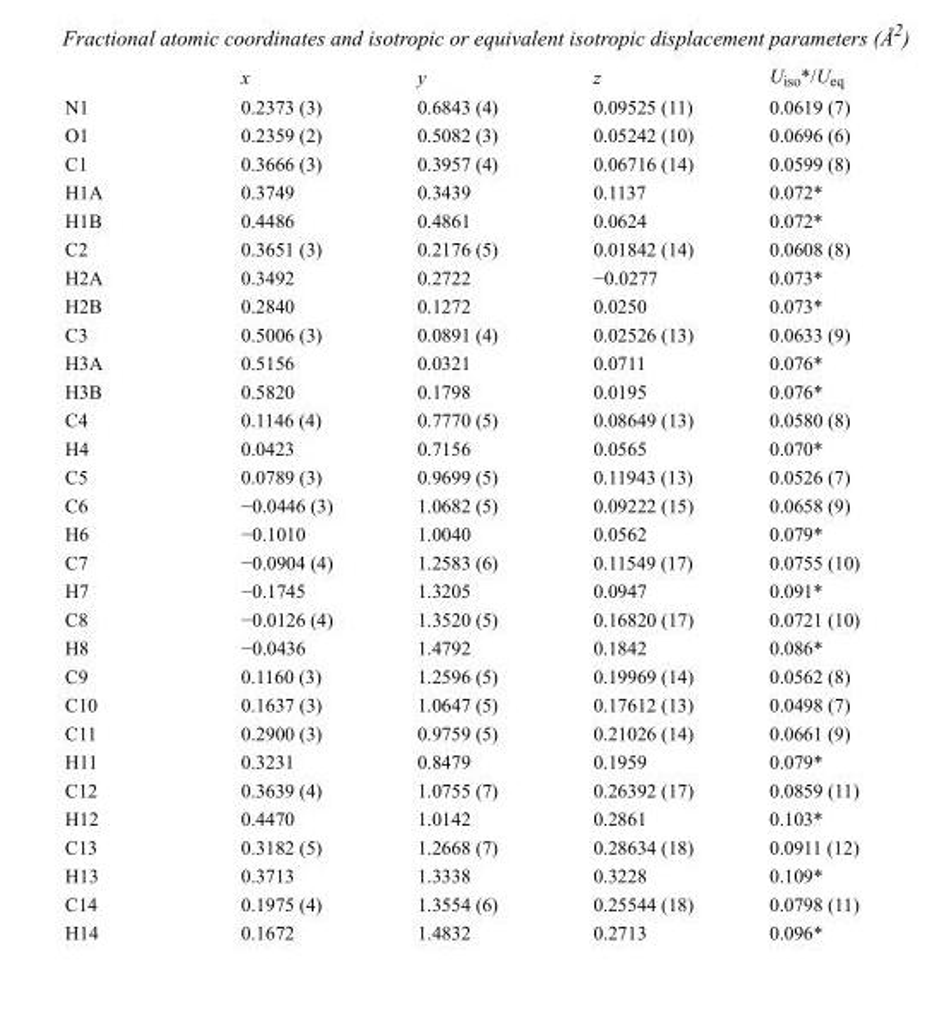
<table><thead><tr><td></td><td>x</td><td>y</td><td>z</td><td>U<sub>iso</sub>*/U<sub>eq</sub></td></tr></thead><tbody><tr><td>N1</td><td>0.2373 (3)</td><td>0.6843 (4)</td><td>0.09525 (11)</td><td>0.0619 (7)</td></tr><tr><td>O1</td><td>0.2359 (2)</td><td>0.5082 (3)</td><td>0.05242 (10)</td><td>0.0696 (6)</td></tr><tr><td>C1</td><td>0.3666 (3)</td><td>0.3957 (4)</td><td>0.06716 (14)</td><td>0.0599 (8)</td></tr><tr><td>H1A</td><td>0.3749</td><td>0.3439</td><td>0.1137</td><td>0.072*</td></tr><tr><td>H1B</td><td>0.4486</td><td>0.4861</td><td>0.0624</td><td>0.072*</td></tr><tr><td>C2</td><td>0.3651 (3)</td><td>0.2176 (5)</td><td>0.01842 (14)</td><td>0.0608 (8)</td></tr><tr><td>H2A</td><td>0.3492</td><td>0.2722</td><td>−0.0277</td><td>0.073*</td></tr><tr><td>H2B</td><td>0.2840</td><td>0.1272</td><td>0.0250</td><td>0.073*</td></tr><tr><td>C3</td><td>0.5006 (3)</td><td>0.0891 (4)</td><td>0.02526 (13)</td><td>0.0633 (9)</td></tr><tr><td>H3A</td><td>0.5156</td><td>0.0321</td><td>0.0711</td><td>0.076*</td></tr><tr><td>H3B</td><td>0.5820</td><td>0.1798</td><td>0.0195</td><td>0.076*</td></tr><tr><td>C4</td><td>0.1146 (4)</td><td>0.7770 (5)</td><td>0.08649 (13)</td><td>0.0580 (8)</td></tr><tr><td>H4</td><td>0.0423</td><td>0.7156</td><td>0.0565</td><td>0.070*</td></tr><tr><td>C5</td><td>0.0789 (3)</td><td>0.9699 (5)</td><td>0.11943 (13)</td><td>0.0526 (7)</td></tr><tr><td>C6</td><td>−0.0446 (3)</td><td>1.0682 (5)</td><td>0.09222 (15)</td><td>0.0658 (9)</td></tr><tr><td>H6</td><td>−0.1010</td><td>1.0040</td><td>0.0562</td><td>0.079*</td></tr><tr><td>C7</td><td>−0.0904 (4)</td><td>1.2583 (6)</td><td>0.11549 (17)</td><td>0.0755 (10)</td></tr><tr><td>H7</td><td>−0.1745</td><td>1.3205</td><td>0.0947</td><td>0.091*</td></tr><tr><td>C8</td><td>−0.0126 (4)</td><td>1.3520 (5)</td><td>0.16820 (17)</td><td>0.0721 (10)</td></tr><tr><td>H8</td><td>−0.0436</td><td>1.4792</td><td>0.1842</td><td>0.086*</td></tr><tr><td>C9</td><td>0.1160 (3)</td><td>1.2596 (5)</td><td>0.19969 (14)</td><td>0.0562 (8)</td></tr><tr><td>C10</td><td>0.1637 (3)</td><td>1.0647 (5)</td><td>0.17612 (13)</td><td>0.0498 (7)</td></tr><tr><td>C11</td><td>0.2900 (3)</td><td>0.9759 (5)</td><td>0.21026 (14)</td><td>0.0661 (9)</td></tr><tr><td>H11</td><td>0.3231</td><td>0.8479</td><td>0.1959</td><td>0.079*</td></tr><tr><td>C12</td><td>0.3639 (4)</td><td>1.0755 (7)</td><td>0.26392 (17)</td><td>0.0859 (11)</td></tr><tr><td>H12</td><td>0.4470</td><td>1.0142</td><td>0.2861</td><td>0.103*</td></tr><tr><td>C13</td><td>0.3182 (5)</td><td>1.2668 (7)</td><td>0.28634 (18)</td><td>0.0911 (12)</td></tr><tr><td>H13</td><td>0.3713</td><td>1.3338</td><td>0.3228</td><td>0.109*</td></tr><tr><td>C14</td><td>0.1975 (4)</td><td>1.3554 (6)</td><td>0.25544 (18)</td><td>0.0798 (11)</td></tr><tr><td>H14</td><td>0.1672</td><td>1.4832</td><td>0.2713</td><td>0.096*</td></tr></tbody></table>